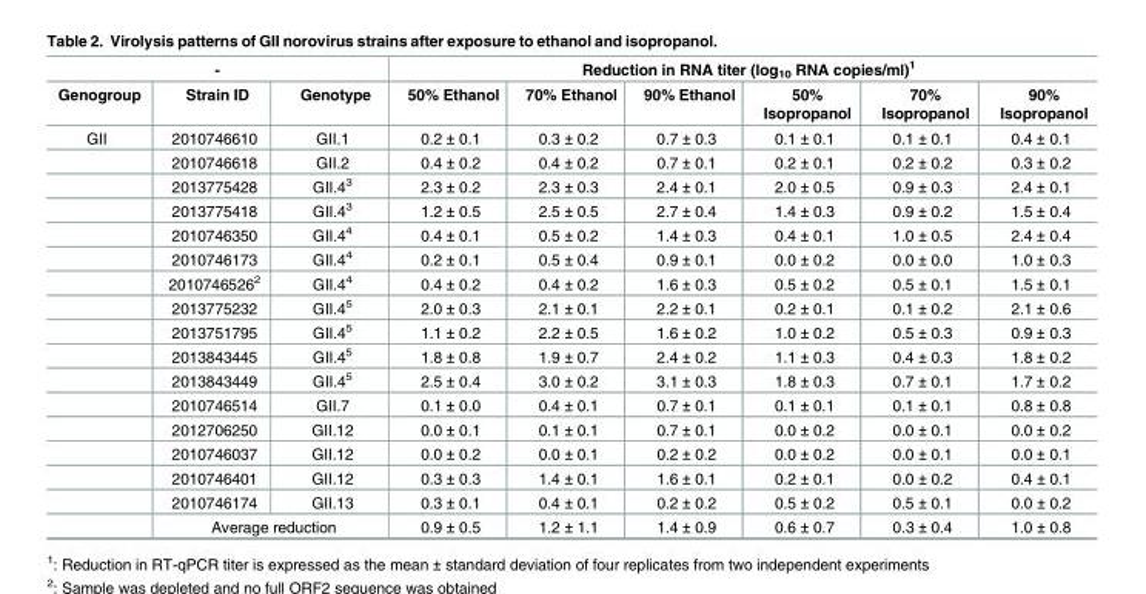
<table><thead><tr><td colspan="3">-</td><td colspan="6">Reduction in RNA titer (log<sub>10</sub> RNA copies/ml)<sup>1</sup></td></tr><tr><td>Genogroup</td><td>Strain ID</td><td>Genotype</td><td>50% Ethanol</td><td>70% Ethanol</td><td>90% Ethanol</td><td>50% Isopropanol</td><td>70% Isopropanol</td><td>90% Isopropanol</td></tr></thead><tbody><tr><td rowspan="17">GII</td><td>2010746610</td><td>GII.1</td><td>0.2 ± 0.1</td><td>0.3 ± 0.2</td><td>0.7 ± 0.3</td><td>0.1 ± 0.1</td><td>0.1 ± 0.1</td><td>0.4 ± 0.1</td></tr><tr><td>2010746618</td><td>GII.2</td><td>0.4 ± 0.2</td><td>0.4 ± 0.2</td><td>0.7 ± 0.1</td><td>0.2 ± 0.1</td><td>0.2 ± 0.2</td><td>0.3 ± 0.2</td></tr><tr><td>2013775428</td><td>GII.4<sup>3</sup></td><td>2.3 ± 0.2</td><td>2.3 ± 0.3</td><td>2.4 ± 0.1</td><td>2.0 ± 0.5</td><td>0.9 ± 0.3</td><td>2.4 ± 0.1</td></tr><tr><td>2013775418</td><td>GII.4<sup>3</sup></td><td>1.2 ± 0.5</td><td>2.5 ± 0.5</td><td>2.7 ± 0.4</td><td>1.4 ± 0.3</td><td>0.9 ± 0.2</td><td>1.5 ± 0.4</td></tr><tr><td>2010746350</td><td>GII.4<sup>4</sup></td><td>0.4 ± 0.1</td><td>0.5 ± 0.2</td><td>1.4 ± 0.3</td><td>0.4 ± 0.1</td><td>1.0 ± 0.5</td><td>2.4 ± 0.4</td></tr><tr><td>2010746173</td><td>GII.4<sup>4</sup></td><td>0.2 ± 0.1</td><td>0.5 ± 0.4</td><td>0.9 ± 0.1</td><td>0.0 ± 0.2</td><td>0.0 ± 0.0</td><td>1.0 ± 0.3</td></tr><tr><td>2010746526<sup>2</sup></td><td>GII.4<sup>4</sup></td><td>0.4 ± 0.2</td><td>0.4 ± 0.2</td><td>1.6 ± 0.3</td><td>0.5 ± 0.2</td><td>0.5 ± 0.1</td><td>1.5 ± 0.1</td></tr><tr><td>2013775232</td><td>GII.4<sup>5</sup></td><td>2.0 ± 0.3</td><td>2.1 ± 0.1</td><td>2.2 ± 0.1</td><td>0.2 ± 0.1</td><td>0.1 ± 0.2</td><td>2.1 ± 0.6</td></tr><tr><td>2013751795</td><td>GII.4<sup>5</sup></td><td>1.1 ± 0.2</td><td>2.2 ± 0.5</td><td>1.6 ± 0.2</td><td>1.0 ± 0.2</td><td>0.5 ± 0.3</td><td>0.9 ± 0.3</td></tr><tr><td>2013843445</td><td>GII.4<sup>5</sup></td><td>1.8 ± 0.8</td><td>1.9 ± 0.7</td><td>2.4 ± 0.2</td><td>1.1 ± 0.3</td><td>0.4 ± 0.3</td><td>1.8 ± 0.2</td></tr><tr><td>2013843449</td><td>GII.4<sup>5</sup></td><td>2.5 ± 0.4</td><td>3.0 ± 0.2</td><td>3.1 ± 0.3</td><td>1.8 ± 0.3</td><td>0.7 ± 0.1</td><td>1.7 ± 0.2</td></tr><tr><td>2010746514</td><td>GII.7</td><td>0.1 ± 0.0</td><td>0.4 ± 0.1</td><td>0.7 ± 0.1</td><td>0.1 ± 0.1</td><td>0.1 ± 0.1</td><td>0.8 ± 0.8</td></tr><tr><td>2012706250</td><td>GII.12</td><td>0.0 ± 0.1</td><td>0.1 ± 0.1</td><td>0.7 ± 0.1</td><td>0.0 ± 0.2</td><td>0.0 ± 0.1</td><td>0.0 ± 0.2</td></tr><tr><td>2010746037</td><td>GII.12</td><td>0.0 ± 0.2</td><td>0.0 ± 0.1</td><td>0.2 ± 0.2</td><td>0.0 ± 0.2</td><td>0.0 ± 0.1</td><td>0.0 ± 0.1</td></tr><tr><td>2010746401</td><td>GII.12</td><td>0.3 ± 0.3</td><td>1.4 ± 0.1</td><td>1.6 ± 0.1</td><td>0.2 ± 0.1</td><td>0.0 ± 0.2</td><td>0.4 ± 0.1</td></tr><tr><td>2010746174</td><td>GII.13</td><td>0.3 ± 0.1</td><td>0.4 ± 0.1</td><td>0.2 ± 0.2</td><td>0.5 ± 0.2</td><td>0.5 ± 0.1</td><td>0.0 ± 0.2</td></tr><tr><td colspan="2">Average reduction</td><td>0.9 ± 0.5</td><td>1.2 ± 1.1</td><td>1.4 ± 0.9</td><td>0.6 ± 0.7</td><td>0.3 ± 0.4</td><td>1.0 ± 0.8</td></tr></tbody></table>